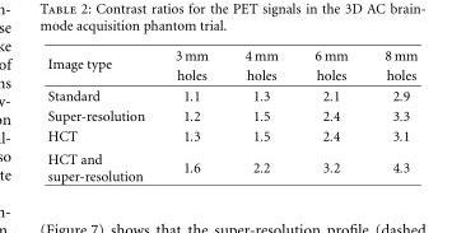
<table><tbody><tr><td rowspan="2">Image type</td><td>3 mm</td><td>4 mm</td><td>6 mm</td><td>8 mm</td></tr><tr><td>holes</td><td>holes</td><td>holes</td><td>holes</td></tr><tr><td>Standard</td><td>1.1</td><td>1.3</td><td>2.1</td><td>2.9</td></tr><tr><td>Super-resolution</td><td>1.2</td><td>1.5</td><td>2.4</td><td>3.3</td></tr><tr><td>HCT</td><td>1.3</td><td>1.5</td><td>2.4</td><td>3.1</td></tr><tr><td>HCT and super-resolution</td><td>1.6</td><td>2.2</td><td>3.2</td><td>4.3</td></tr></tbody></table>